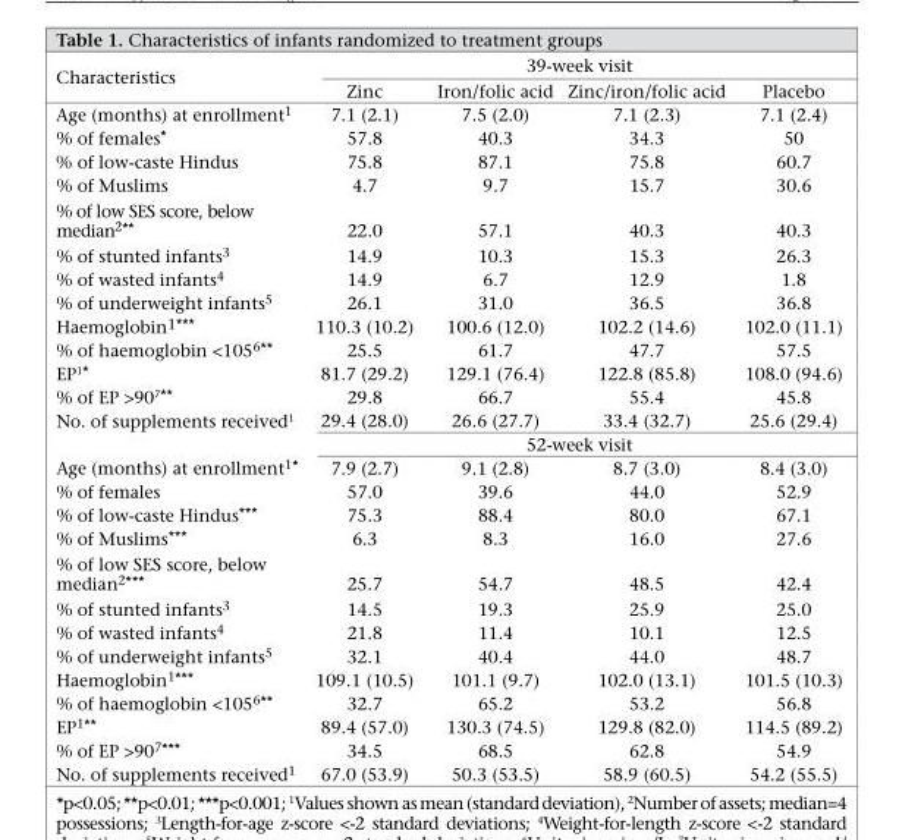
<table><thead><tr><td rowspan="2">Characteristics</td><td colspan="4">39-week visit</td></tr><tr><td>Zinc</td><td>Iron/folic acid</td><td>Zinc/iron/folic acid</td><td>Placebo</td></tr></thead><tbody><tr><td>Age (months) at enrollment<sup>1</sup></td><td>7.1 (2.1)</td><td>7.5 (2.0)</td><td>7.1 (2.3)</td><td>7.1 (2.4)</td></tr><tr><td>% of females*</td><td>57.8</td><td>40.3</td><td>34.3</td><td>50</td></tr><tr><td>% of low-caste Hindus</td><td>75.8</td><td>87.1</td><td>75.8</td><td>60.7</td></tr><tr><td>% of Muslims</td><td>4.7</td><td>9.7</td><td>15.7</td><td>30.6</td></tr><tr><td>% of low SES score, below median<sup>2</sup>**</td><td>22.0</td><td>57.1</td><td>40.3</td><td>40.3</td></tr><tr><td>% of stunted infants<sup>3</sup></td><td>14.9</td><td>10.3</td><td>15.3</td><td>26.3</td></tr><tr><td>% of wasted infants<sup>4</sup></td><td>14.9</td><td>6.7</td><td>12.9</td><td>1.8</td></tr><tr><td>% of underweight infants<sup>5</sup></td><td>26.1</td><td>31.0</td><td>36.5</td><td>36.8</td></tr><tr><td>Haemoglobin<sup>1</sup>***</td><td>110.3 (10.2)</td><td>100.6 (12.0)</td><td>102.2 (14.6)</td><td>102.0 (11.1)</td></tr><tr><td>% of haemoglobin &lt;105<sup>6</sup>**</td><td>25.5</td><td>61.7</td><td>47.7</td><td>57.5</td></tr><tr><td>EP<sup>1</sup>*</td><td>81.7 (29.2)</td><td>129.1 (76.4)</td><td>122.8 (85.8)</td><td>108.0 (94.6)</td></tr><tr><td>% of EP &gt;90<sup>7</sup>**</td><td>29.8</td><td>66.7</td><td>55.4</td><td>45.8</td></tr><tr><td rowspan="2">No. of supplements received<sup>1</sup></td><td>29.4 (28.0)</td><td>26.6 (27.7)</td><td>33.4 (32.7)</td><td>25.6 (29.4)</td></tr><tr><td colspan="4">52-week visit</td></tr><tr><td>Age (months) at enrollment<sup>1</sup>*</td><td>7.9 (2.7)</td><td>9.1 (2.8)</td><td>8.7 (3.0)</td><td>8.4 (3.0)</td></tr><tr><td>% of females</td><td>57.0</td><td>39.6</td><td>44.0</td><td>52.9</td></tr><tr><td>% of low-caste Hindus***</td><td>75.3</td><td>88.4</td><td>80.0</td><td>67.1</td></tr><tr><td>% of Muslims***</td><td>6.3</td><td>8.3</td><td>16.0</td><td>27.6</td></tr><tr><td>% of low SES score, below median<sup>2</sup>***</td><td>25.7</td><td>54.7</td><td>48.5</td><td>42.4</td></tr><tr><td>% of stunted infants<sup>3</sup></td><td>14.5</td><td>19.3</td><td>25.9</td><td>25.0</td></tr><tr><td>% of wasted infants<sup>4</sup></td><td>21.8</td><td>11.4</td><td>10.1</td><td>12.5</td></tr><tr><td>% of underweight infants<sup>5</sup></td><td>32.1</td><td>40.4</td><td>44.0</td><td>48.7</td></tr><tr><td>Haemoglobin<sup>1</sup>***</td><td>109.1 (10.5)</td><td>101.1 (9.7)</td><td>102.0 (13.1)</td><td>101.5 (10.3)</td></tr><tr><td>% of haemoglobin &lt;105<sup>6</sup>**</td><td>32.7</td><td>65.2</td><td>53.2</td><td>56.8</td></tr><tr><td>EP<sup>1</sup>**</td><td>89.4 (57.0)</td><td>130.3 (74.5)</td><td>129.8 (82.0)</td><td>114.5 (89.2)</td></tr><tr><td>% of EP &gt;90<sup>7</sup>***</td><td>34.5</td><td>68.5</td><td>62.8</td><td>54.9</td></tr><tr><td>No. of supplements received<sup>1</sup></td><td>67.0 (53.9)</td><td>50.3 (53.5)</td><td>58.9 (60.5)</td><td>54.2 (55.5)</td></tr></tbody></table>